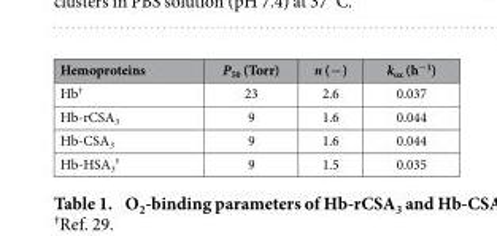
<table><thead><tr><td>Hemoproteins</td><td>P<sub>50</sub> (Torr)</td><td>n (−)</td><td>k<sub>ox</sub> (h<sup>−1</sup>)</td></tr></thead><tbody><tr><td>Hb†</td><td>23</td><td>2.6</td><td>0.037</td></tr><tr><td>Hb-rCSA<sub>3</sub></td><td>9</td><td>1.6</td><td>0.044</td></tr><tr><td>Hb-CSA<sub>3</sub></td><td>9</td><td>1.6</td><td>0.044</td></tr><tr><td>Hb-HSA<sub>3</sub> †</td><td>9</td><td>1.5</td><td>0.035</td></tr></tbody></table>